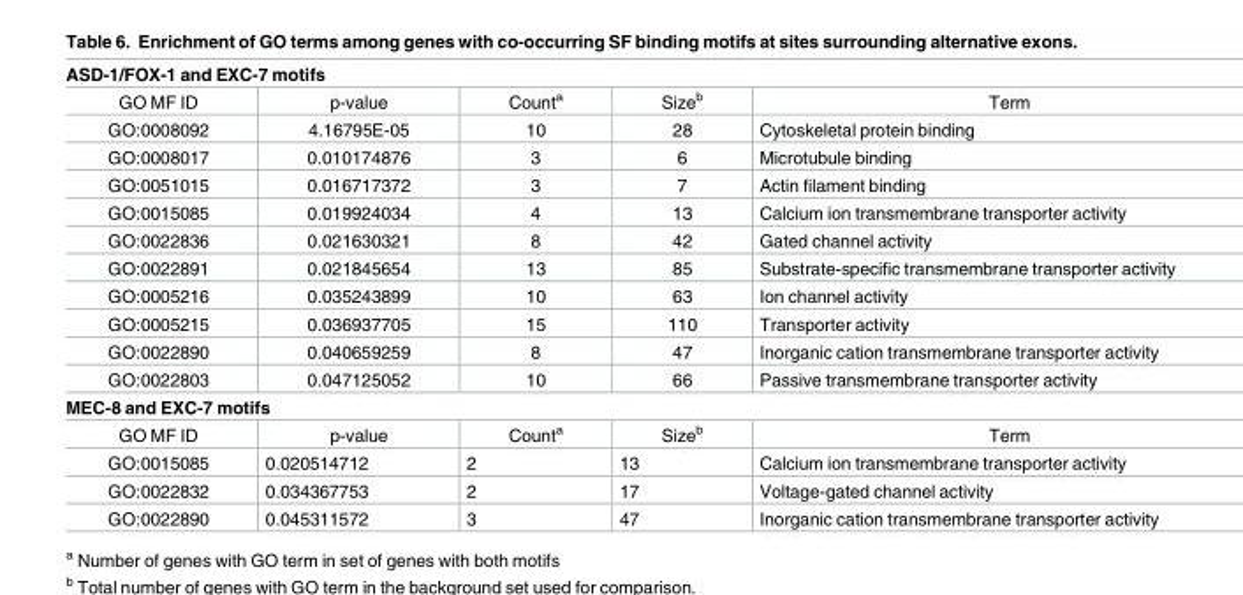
<table><tbody><tr><td colspan="5">ASD-1/FOX-1 and EXC-7 motifs</td></tr><tr><td>GO MF ID</td><td>p-value</td><td>Count<sup>a</sup></td><td>Size<sup>b</sup></td><td>Term</td></tr><tr><td>GO:0008092</td><td>4.16795E-05</td><td>10</td><td>28</td><td>Cytoskeletal protein binding</td></tr><tr><td>GO:0008017</td><td>0.010174876</td><td>3</td><td>6</td><td>Microtubule binding</td></tr><tr><td>GO:0051015</td><td>0.016717372</td><td>3</td><td>7</td><td>Actin filament binding</td></tr><tr><td>GO:0015085</td><td>0.019924034</td><td>4</td><td>13</td><td>Calcium ion transmembrane transporter activity</td></tr><tr><td>GO:0022836</td><td>0.021630321</td><td>8</td><td>42</td><td>Gated channel activity</td></tr><tr><td>GO:0022891</td><td>0.021845654</td><td>13</td><td>85</td><td>Substrate-specific transmembrane transporter activity</td></tr><tr><td>GO:0005216</td><td>0.035243899</td><td>10</td><td>63</td><td>Ion channel activity</td></tr><tr><td>GO:0005215</td><td>0.036937705</td><td>15</td><td>110</td><td>Transporter activity</td></tr><tr><td>GO:0022890</td><td>0.040659259</td><td>8</td><td>47</td><td>Inorganic cation transmembrane transporter activity</td></tr><tr><td>GO:0022803</td><td>0.047125052</td><td>10</td><td>66</td><td>Passive transmembrane transporter activity</td></tr><tr><td colspan="5">MEC-8 and EXC-7 motifs</td></tr><tr><td>GO MF ID</td><td>p-value</td><td>Count<sup>a</sup></td><td>Size<sup>b</sup></td><td>Term</td></tr><tr><td>GO:0015085</td><td>0.020514712</td><td>2</td><td>13</td><td>Calcium ion transmembrane transporter activity</td></tr><tr><td>GO:0022832</td><td>0.034367753</td><td>2</td><td>17</td><td>Voltage-gated channel activity</td></tr><tr><td>GO:0022890</td><td>0.045311572</td><td>3</td><td>47</td><td>Inorganic cation transmembrane transporter activity</td></tr></tbody></table>